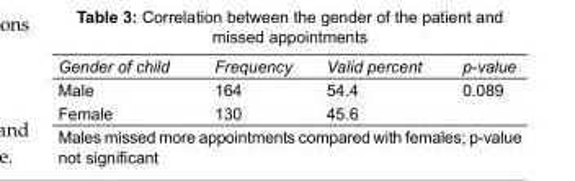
<table><tbody><tr><td>Gender of child</td><td>Frequency</td><td>Valid percent</td><td>p-value</td></tr><tr><td>Male</td><td>164</td><td>54.4</td><td>0.089</td></tr><tr><td>Female</td><td>130</td><td>45.6</td><td></td></tr></tbody></table>